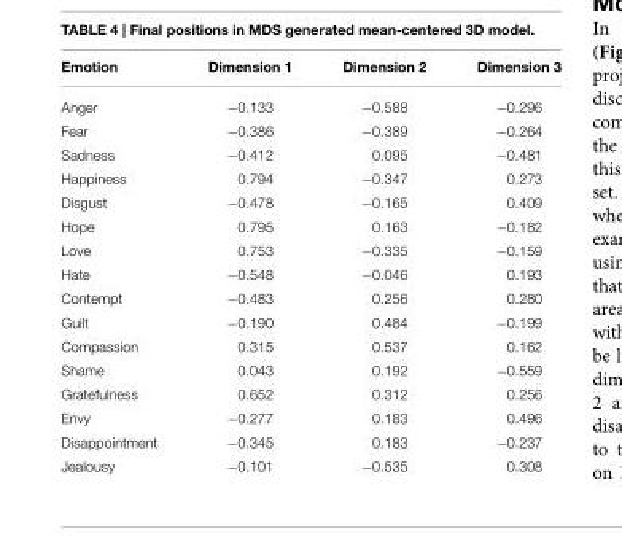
<table><thead><tr><td>Emotion</td><td>Dimension 1</td><td>Dimension 2</td><td>Dimension 3</td></tr></thead><tbody><tr><td>Anger</td><td>−0.133</td><td>−0.588</td><td>−0.296</td></tr><tr><td>Fear</td><td>−0.386</td><td>−0.389</td><td>−0.264</td></tr><tr><td>Sadness</td><td>−0.412</td><td>0.095</td><td>−0.481</td></tr><tr><td>Happiness</td><td>0.794</td><td>−0.347</td><td>0.273</td></tr><tr><td>Disgust</td><td>−0.478</td><td>−0.165</td><td>0.409</td></tr><tr><td>Hope</td><td>0.795</td><td>0.163</td><td>−0.182</td></tr><tr><td>Love</td><td>0.753</td><td>−0.335</td><td>−0.159</td></tr><tr><td>Hate</td><td>−0.548</td><td>−0.046</td><td>0.193</td></tr><tr><td>Contempt</td><td>−0.483</td><td>0.256</td><td>0.280</td></tr><tr><td>Guilt</td><td>−0.190</td><td>0.484</td><td>−0.199</td></tr><tr><td>Compassion</td><td>0.315</td><td>0.537</td><td>0.162</td></tr><tr><td>Shame</td><td>0.043</td><td>0.192</td><td>−0.559</td></tr><tr><td>Gratefulness</td><td>0.652</td><td>0.312</td><td>0.256</td></tr><tr><td>Envy</td><td>−0.277</td><td>0.183</td><td>0.496</td></tr><tr><td>Disappointment</td><td>−0.345</td><td>0.183</td><td>−0.237</td></tr><tr><td>Jealousy</td><td>−0.101</td><td>−0.535</td><td>0.308</td></tr></tbody></table>